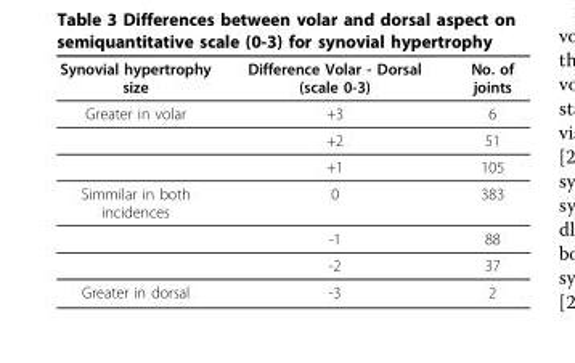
<table><thead><tr><td>Synovial hypertrophy size</td><td>Difference Volar - Dorsal (scale 0-3)</td><td>No. of joints</td></tr></thead><tbody><tr><td rowspan="3">Greater in volar</td><td>+3</td><td>6</td></tr><tr><td>+2</td><td>51</td></tr><tr><td>+1</td><td>105</td></tr><tr><td rowspan="3">Simmilar in both incidences</td><td>0</td><td>383</td></tr><tr><td>-1</td><td>88</td></tr><tr><td>-2</td><td>37</td></tr><tr><td>Greater in dorsal</td><td>-3</td><td>2</td></tr></tbody></table>